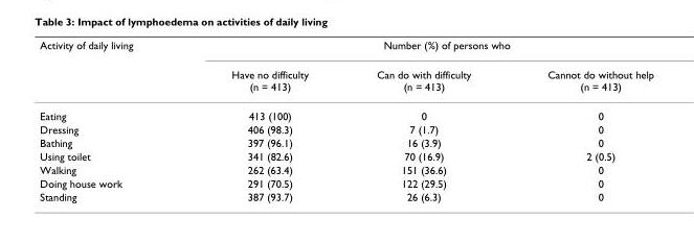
<table><thead><tr><td rowspan="2">Activity of daily living</td><td colspan="3">Number (%) of persons who</td></tr><tr><td>Have no difficulty (n = 413)</td><td>Can do with difficulty (n = 413)</td><td>Cannot do without help (n = 413)</td></tr></thead><tbody><tr><td>Eating</td><td>413 (100)</td><td>0</td><td>0</td></tr><tr><td>Dressing</td><td>406 (98.3)</td><td>7 (1.7)</td><td>0</td></tr><tr><td>Bathing</td><td>397 (96.1)</td><td>16 (3.9)</td><td>0</td></tr><tr><td>Using toilet</td><td>341 (82.6)</td><td>70 (16.9)</td><td>2 (0.5)</td></tr><tr><td>Walking</td><td>262 (63.4)</td><td>151 (36.6)</td><td>0</td></tr><tr><td>Doing house work</td><td>291 (70.5)</td><td>122 (29.5)</td><td>0</td></tr><tr><td>Standing</td><td>387 (93.7)</td><td>26 (6.3)</td><td>0</td></tr></tbody></table>